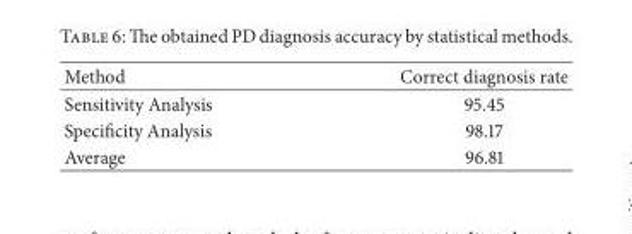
<table><thead><tr><td>Method</td><td>Correct diagnosis rate</td></tr></thead><tbody><tr><td>Sensitivity Analysis</td><td>95.45</td></tr><tr><td>Specificity Analysis</td><td>98.17</td></tr><tr><td>Average</td><td>96.81</td></tr></tbody></table>